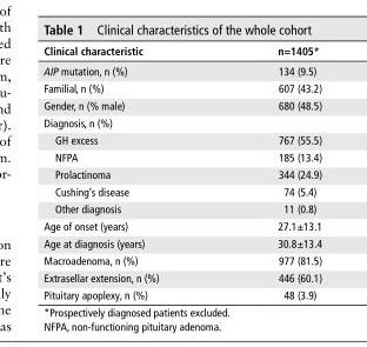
<table><thead><tr><td>Clinical characteristic</td><td>n=1405*</td></tr></thead><tbody><tr><td>AIP mutation, n (%)</td><td>134 (9.5)</td></tr><tr><td>Familial, n (%)</td><td>607 (43.2)</td></tr><tr><td>Gender, n (% male)</td><td>680 (48.5)</td></tr><tr><td colspan="2">Diagnosis, n (%)</td></tr><tr><td>GH excess</td><td>767 (55.5)</td></tr><tr><td>NFPA</td><td>185 (13.4)</td></tr><tr><td>Prolactinoma</td><td>344 (24.9)</td></tr><tr><td>Cushing’s disease</td><td>74 (5.4)</td></tr><tr><td>Other diagnosis</td><td>11 (0.8)</td></tr><tr><td>Age of onset (years)</td><td>27.1±13.1</td></tr><tr><td>Age at diagnosis (years)</td><td>30.8±13.4</td></tr><tr><td>Macroadenoma, n (%)</td><td>977 (81.5)</td></tr><tr><td>Extrasellar extension, n (%)</td><td>446 (60.1)</td></tr><tr><td>Pituitary apoplexy, n (%)</td><td>48 (3.9)</td></tr></tbody></table>